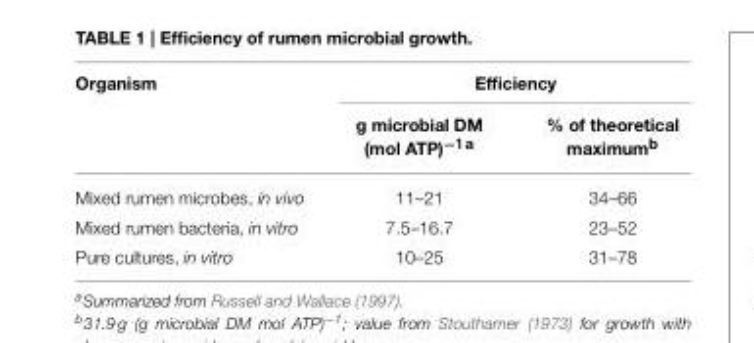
<table><thead><tr><td rowspan="2">Organism</td><td colspan="2">Efficiency</td></tr><tr><td>g microbial DM (mol ATP)<sup>−1a</sup></td><td>% of theoretical maximum<sup>b</sup></td></tr></thead><tbody><tr><td>Mixed rumen microbes, in vivo</td><td>11–21</td><td>34–66</td></tr><tr><td>Mixed rumen bacteria, in vitro</td><td>7.5–16.7</td><td>23–52</td></tr><tr><td>Pure cultures, in vitro</td><td>10–25</td><td>31–78</td></tr></tbody></table>